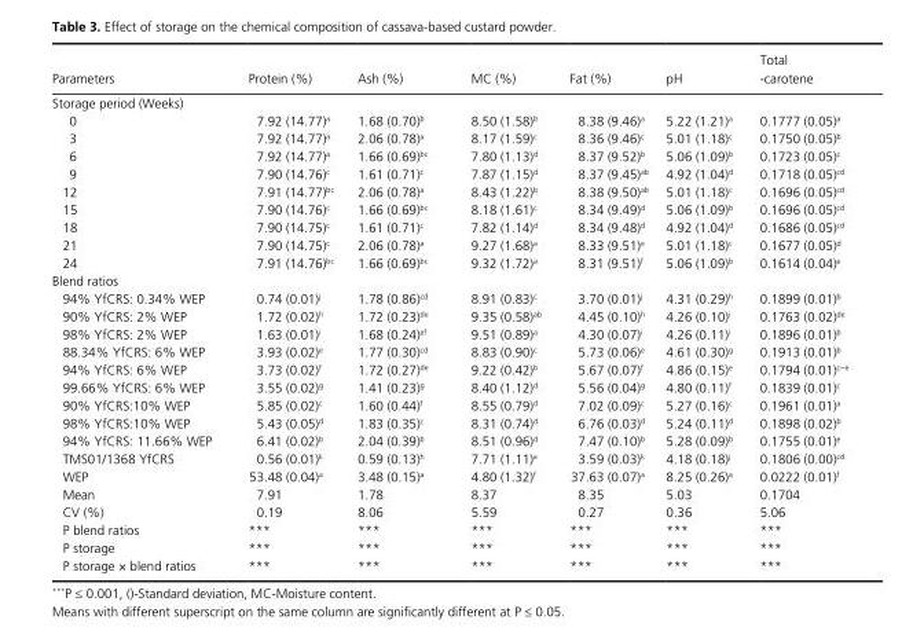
<table><thead><tr><td>Parameters</td><td>Protein (%)</td><td>Ash (%)</td><td>MC (%)</td><td>Fat (%)</td><td>pH</td><td>Total - carotene</td></tr></thead><tbody><tr><td colspan="7">Storage period (Weeks)</td></tr><tr><td>0</td><td>7.92 (14.77)<sup>a</sup></td><td>1.68 (0.70)<sup>b</sup></td><td>8.50 (1.58)<sup>b</sup></td><td>8.38 (9.46)<sup>a</sup></td><td>5.22 (1.21)<sup>a</sup></td><td>0.1777 (0.05)<sup>a</sup></td></tr><tr><td>3</td><td>7.92 (14.77)<sup>a</sup></td><td>2.06 (0.78)<sup>a</sup></td><td>8.17 (1.59)<sup>c</sup></td><td>8.36 (9.46)<sup>c</sup></td><td>5.01 (1.18)<sup>c</sup></td><td>0.1750 (0.05)<sup>b</sup></td></tr><tr><td>6</td><td>7.92 (14.77)<sup>a</sup></td><td>1.66 (0.69)<sup>bc</sup></td><td>7.80 (1.13)<sup>d</sup></td><td>8.37 (9.52)<sup>b</sup></td><td>5.06 (1.09)<sup>b</sup></td><td>0.1723 (0.05)<sup>c</sup></td></tr><tr><td>9</td><td>7.90 (14.76)<sup>c</sup></td><td>1.61 (0.71)<sup>c</sup></td><td>7.87 (1.15)<sup>d</sup></td><td>8.37 (9.45)<sup>ab</sup></td><td>4.92 (1.04)<sup>d</sup></td><td>0.1718 (0.05)<sup>cd</sup></td></tr><tr><td>12</td><td>7.91 (14.77)<sup>bc</sup></td><td>2.06 (0.78)<sup>a</sup></td><td>8.43 (1.22)<sup>b</sup></td><td>8.38 (9.50)<sup>ab</sup></td><td>5.01 (1.18)<sup>c</sup></td><td>0.1696 (0.05)<sup>cd</sup></td></tr><tr><td>15</td><td>7.90 (14.76)<sup>c</sup></td><td>1.66 (0.69)<sup>bc</sup></td><td>8.18 (1.61)<sup>c</sup></td><td>8.34 (9.49)<sup>d</sup></td><td>5.06 (1.09)<sup>b</sup></td><td>0.1696 (0.05)<sup>cd</sup></td></tr><tr><td>18</td><td>7.90 (14.75)<sup>c</sup></td><td>1.61 (0.71)<sup>c</sup></td><td>7.82 (1.14)<sup>d</sup></td><td>8.34 (9.48)<sup>d</sup></td><td>4.92 (1.04)<sup>d</sup></td><td>0.1686 (0.05)<sup>cd</sup></td></tr><tr><td>21</td><td>7.90 (14.75)<sup>c</sup></td><td>2.06 (0.78)<sup>a</sup></td><td>9.27 (1.68)<sup>a</sup></td><td>8.33 (9.51)<sup>e</sup></td><td>5.01 (1.18)<sup>c</sup></td><td>0.1677 (0.05)<sup>d</sup></td></tr><tr><td>24</td><td>7.91 (14.76)<sup>bc</sup></td><td>1.66 (0.69)<sup>bc</sup></td><td>9.32 (1.72)<sup>a</sup></td><td>8.31 (9.51)<sup>f</sup></td><td>5.06 (1.09)<sup>b</sup></td><td>0.1614 (0.04)<sup>e</sup></td></tr><tr><td colspan="7">Blend ratios</td></tr><tr><td>94% YfCRS: 0.34% WEP</td><td>0.74 (0.01)<sup>j</sup></td><td>1.78 (0.86)<sup>cd</sup></td><td>8.91 (0.83)<sup>c</sup></td><td>3.70 (0.01)<sup>j</sup></td><td>4.31 (0.29)<sup>h</sup></td><td>0.1899 (0.01)<sup>b</sup></td></tr><tr><td>90% YfCRS: 2% WEP</td><td>1.72 (0.02)<sup>h</sup></td><td>1.72 (0.23)<sup>de</sup></td><td>9.35 (0.58)<sup>ab</sup></td><td>4.45 (0.10)<sup>h</sup></td><td>4.26 (0.10)<sup>i</sup></td><td>0.1763 (0.02)<sup>de</sup></td></tr><tr><td>98% YfCRS: 2% WEP</td><td>1.63 (0.01)<sup>i</sup></td><td>1.68 (0.24)<sup>ef</sup></td><td>9.51 (0.89)<sup>a</sup></td><td>4.30 (0.07)<sup>i</sup></td><td>4.26 (0.11)<sup>i</sup></td><td>0.1896 (0.01)<sup>b</sup></td></tr><tr><td>88.34% YfCRS: 6% WEP</td><td>3.93 (0.02)<sup>e</sup></td><td>1.77 (0.30)<sup>cd</sup></td><td>8.83 (0.90)<sup>c</sup></td><td>5.73 (0.06)<sup>e</sup></td><td>4.61 (0.30)<sup>g</sup></td><td>0.1913 (0.01)<sup>b</sup></td></tr><tr><td>94% YfCRS: 6% WEP</td><td>3.73 (0.02)<sup>f</sup></td><td>1.72 (0.27)<sup>de</sup></td><td>9.22 (0.42)<sup>b</sup></td><td>5.67 (0.07)<sup>f</sup></td><td>4.86 (0.15)<sup>e</sup></td><td>0.1794 (0.01)<sup>c−e</sup></td></tr><tr><td>99.66% YfCRS: 6% WEP</td><td>3.55 (0.02)<sup>g</sup></td><td>1.41 (0.23)<sup>g</sup></td><td>8.40 (1.12)<sup>d</sup></td><td>5.56 (0.04)<sup>g</sup></td><td>4.80 (0.11)<sup>f</sup></td><td>0.1839 (0.01)<sup>c</sup></td></tr><tr><td>90% YfCRS:10% WEP</td><td>5.85 (0.02)<sup>c</sup></td><td>1.60 (0.44)<sup>f</sup></td><td>8.55 (0.79)<sup>d</sup></td><td>7.02 (0.09)<sup>c</sup></td><td>5.27 (0.16)<sup>c</sup></td><td>0.1961 (0.01)<sup>a</sup></td></tr><tr><td>98% YfCRS:10% WEP</td><td>5.43 (0.05)<sup>d</sup></td><td>1.83 (0.35)<sup>c</sup></td><td>8.31 (0.74)<sup>d</sup></td><td>6.76 (0.03)<sup>d</sup></td><td>5.24 (0.11)<sup>d</sup></td><td>0.1898 (0.02)<sup>b</sup></td></tr><tr><td>94% YfCRS: 11.66% WEP</td><td>6.41 (0.02)<sup>b</sup></td><td>2.04 (0.39)<sup>b</sup></td><td>8.51 (0.96)<sup>d</sup></td><td>7.47 (0.10)<sup>b</sup></td><td>5.28 (0.09)<sup>b</sup></td><td>0.1755 (0.01)<sup>e</sup></td></tr><tr><td>TMS01/1368 YfCRS</td><td>0.56 (0.01)<sup>k</sup></td><td>0.59 (0.13)<sup>h</sup></td><td>7.71 (1.11)<sup>e</sup></td><td>3.59 (0.03)<sup>k</sup></td><td>4.18 (0.18)<sup>j</sup></td><td>0.1806 (0.00)<sup>cd</sup></td></tr><tr><td>WEP</td><td>53.48 (0.04)<sup>a</sup></td><td>3.48 (0.15)<sup>a</sup></td><td>4.80 (1.32)<sup>f</sup></td><td>37.63 (0.07)<sup>a</sup></td><td>8.25 (0.26)<sup>a</sup></td><td>0.0222 (0.01)<sup>f</sup></td></tr><tr><td>Mean</td><td>7.91</td><td>1.78</td><td>8.37</td><td>8.35</td><td>5.03</td><td>0.1704</td></tr><tr><td>CV (%)</td><td>0.19</td><td>8.06</td><td>5.59</td><td>0.27</td><td>0.36</td><td>5.06</td></tr><tr><td>P blend ratios</td><td>***</td><td>***</td><td>***</td><td>***</td><td>***</td><td>***</td></tr><tr><td>P storage</td><td>***</td><td>***</td><td>***</td><td>***</td><td>***</td><td>***</td></tr><tr><td>P storage × blend ratios</td><td>***</td><td>***</td><td>***</td><td>***</td><td>***</td><td>***</td></tr></tbody></table>